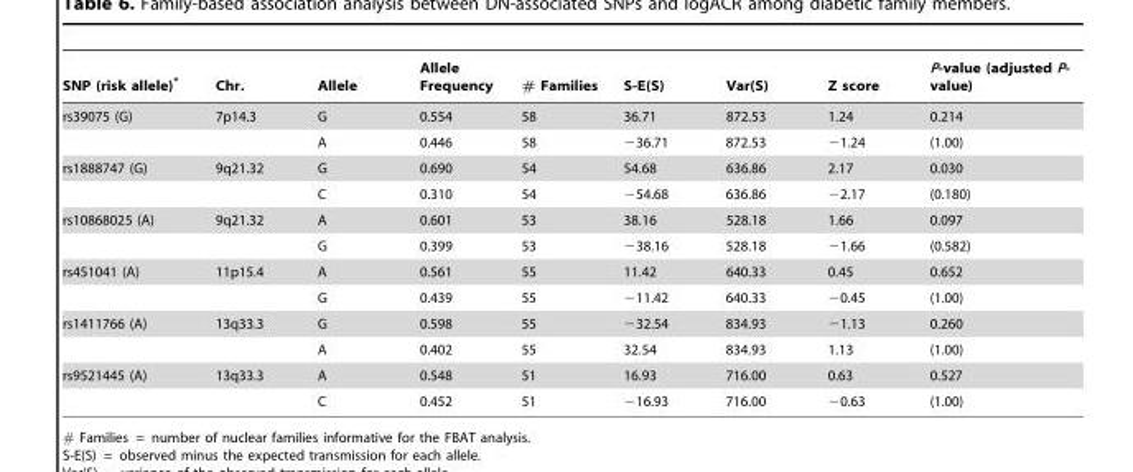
<table><thead><tr><td>SNP (risk allele)*</td><td>Chr.</td><td>Allele</td><td>Allele Frequency</td><td># Families</td><td>S-E(S)</td><td>Var(S)</td><td>Z score</td><td>P-value (adjusted P- value)</td></tr></thead><tbody><tr><td rowspan="2">rs39075 (G)</td><td>7p14.3</td><td>G</td><td>0.554</td><td>58</td><td>36.71</td><td>872.53</td><td>1.24</td><td>0.214</td></tr><tr><td></td><td>A</td><td>0.446</td><td>58</td><td>−36.71</td><td>872.53</td><td>−1.24</td><td>(1.00)</td></tr><tr><td rowspan="2">rs1888747 (G)</td><td>9q21.32</td><td>G</td><td>0.690</td><td>54</td><td>54.68</td><td>636.86</td><td>2.17</td><td>0.030</td></tr><tr><td></td><td>C</td><td>0.310</td><td>54</td><td>−54.68</td><td>636.86</td><td>−2.17</td><td>(0.180)</td></tr><tr><td rowspan="2">rs10868025 (A)</td><td>9q21.32</td><td>A</td><td>0.601</td><td>53</td><td>38.16</td><td>528.18</td><td>1.66</td><td>0.097</td></tr><tr><td></td><td>G</td><td>0.399</td><td>53</td><td>−38.16</td><td>528.18</td><td>−1.66</td><td>(0.582)</td></tr><tr><td rowspan="2">rs451041 (A)</td><td>11p15.4</td><td>A</td><td>0.561</td><td>55</td><td>11.42</td><td>640.33</td><td>0.45</td><td>0.652</td></tr><tr><td></td><td>G</td><td>0.439</td><td>55</td><td>−11.42</td><td>640.33</td><td>−0.45</td><td>(1.00)</td></tr><tr><td rowspan="2">rs1411766 (A)</td><td>13q33.3</td><td>G</td><td>0.598</td><td>55</td><td>−32.54</td><td>834.93</td><td>−1.13</td><td>0.260</td></tr><tr><td></td><td>A</td><td>0.402</td><td>55</td><td>32.54</td><td>834.93</td><td>1.13</td><td>(1.00)</td></tr><tr><td rowspan="2">rs9521445 (A)</td><td>13q33.3</td><td>A</td><td>0.548</td><td>51</td><td>16.93</td><td>716.00</td><td>0.63</td><td>0.527</td></tr><tr><td></td><td>C</td><td>0.452</td><td>51</td><td>−16.93</td><td>716.00</td><td>−0.63</td><td>(1.00)</td></tr></tbody></table>